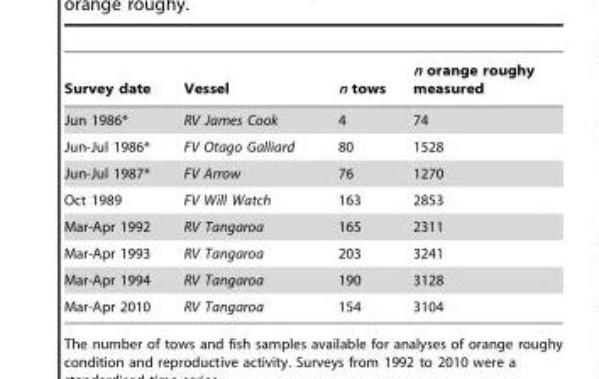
<table><thead><tr><td>Survey date</td><td>Vessel</td><td>n tows</td><td>n orange roughy measured</td></tr></thead><tbody><tr><td>Jun 1986*</td><td>RV James Cook</td><td>4</td><td>74</td></tr><tr><td>Jun-Jul 1986*</td><td>FV Otago Galliard</td><td>80</td><td>1528</td></tr><tr><td>Jun-Jul 1987*</td><td>FV Arrow</td><td>76</td><td>1270</td></tr><tr><td>Oct 1989</td><td>FV Will Watch</td><td>163</td><td>2853</td></tr><tr><td>Mar-Apr 1992</td><td>RV Tangaroa</td><td>165</td><td>2311</td></tr><tr><td>Mar-Apr 1993</td><td>RV Tangaroa</td><td>203</td><td>3241</td></tr><tr><td>Mar-Apr 1994</td><td>RV Tangaroa</td><td>190</td><td>3128</td></tr><tr><td>Mar-Apr 2010</td><td>RV Tangaroa</td><td>154</td><td>3104</td></tr></tbody></table>